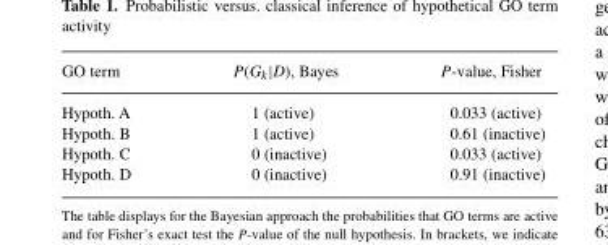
<table><thead><tr><td>GO term</td><td>P(G<sub>k</sub>|D), Bayes</td><td>P-value, Fisher</td></tr></thead><tbody><tr><td>Hypoth. A</td><td>1 (active)</td><td>0.033 (active)</td></tr><tr><td>Hypoth. B</td><td>1 (active)</td><td>0.61 (inactive)</td></tr><tr><td>Hypoth. C</td><td>0 (inactive)</td><td>0.033 (active)</td></tr><tr><td>Hypoth. D</td><td>0 (inactive)</td><td>0.91 (inactive)</td></tr></tbody></table>